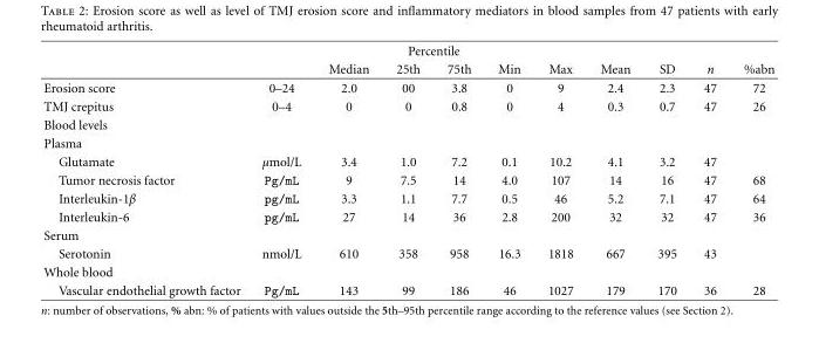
<table><thead><tr><td rowspan="2"></td><td rowspan="2"></td><td rowspan="2">Median</td><td colspan="2">Percentile</td><td rowspan="2">Min</td><td rowspan="2">Max</td><td rowspan="2">Mean</td><td rowspan="2">SD</td><td rowspan="2">n</td><td rowspan="2">%abn</td></tr><tr><td>25th</td><td>75th</td></tr></thead><tbody><tr><td>Erosion score</td><td>0–24</td><td>2.0</td><td>00</td><td>3.8</td><td>0</td><td>9</td><td>2.4</td><td>2.3</td><td>47</td><td>72</td></tr><tr><td>TMJ crepitus</td><td>0–4</td><td>0</td><td>0</td><td>0.8</td><td>0</td><td>4</td><td>0.3</td><td>0.7</td><td>47</td><td>26</td></tr><tr><td colspan="11">Blood levels</td></tr><tr><td colspan="11">Plasma</td></tr><tr><td>Glutamate</td><td>μmol/L</td><td>3.4</td><td>1.0</td><td>7.2</td><td>0.1</td><td>10.2</td><td>4.1</td><td>3.2</td><td>47</td><td></td></tr><tr><td>Tumor necrosis factor</td><td>Pg/mL</td><td>9</td><td>7.5</td><td>14</td><td>4.0</td><td>107</td><td>14</td><td>16</td><td>47</td><td>68</td></tr><tr><td>Interleukin-1β</td><td>pg/mL</td><td>3.3</td><td>1.1</td><td>7.7</td><td>0.5</td><td>46</td><td>5.2</td><td>7.1</td><td>47</td><td>64</td></tr><tr><td>Interleukin-6</td><td>pg/mL</td><td>27</td><td>14</td><td>36</td><td>2.8</td><td>200</td><td>32</td><td>32</td><td>47</td><td>36</td></tr><tr><td colspan="11">Serum</td></tr><tr><td>Serotonin</td><td>nmol/L</td><td>610</td><td>358</td><td>958</td><td>16.3</td><td>1818</td><td>667</td><td>395</td><td>43</td><td></td></tr><tr><td colspan="11">Whole blood</td></tr><tr><td>Vascular endothelial growth factor</td><td>Pg/mL</td><td>143</td><td>99</td><td>186</td><td>46</td><td>1027</td><td>179</td><td>170</td><td>36</td><td>28</td></tr></tbody></table>